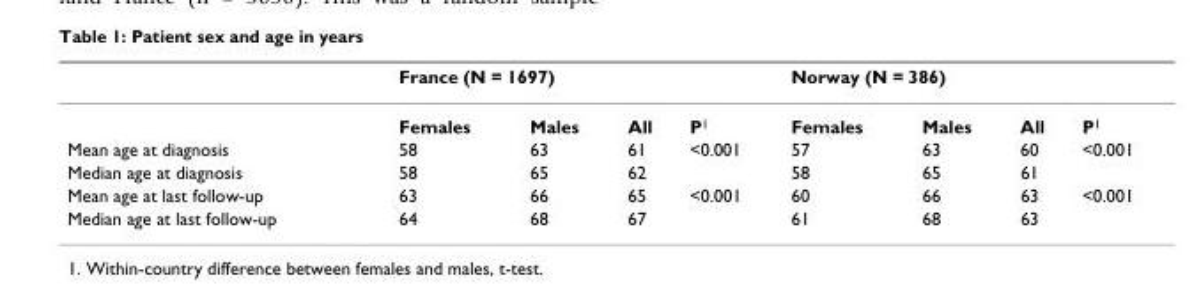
<table><thead><tr><td rowspan="2"></td><td colspan="4">France (N = 1697)</td><td colspan="4">Norway (N = 386)</td></tr><tr><td>Females</td><td>Males</td><td>All</td><td>P<sup>1</sup></td><td>Females</td><td>Males</td><td>All</td><td>P<sup>1</sup></td></tr></thead><tbody><tr><td>Mean age at diagnosis</td><td>58</td><td>63</td><td>61</td><td>&lt;0.001</td><td>57</td><td>63</td><td>60</td><td>&lt;0.001</td></tr><tr><td>Median age at diagnosis</td><td>58</td><td>65</td><td>62</td><td></td><td>58</td><td>65</td><td>61</td><td></td></tr><tr><td>Mean age at last follow-up</td><td>63</td><td>66</td><td>65</td><td>&lt;0.001</td><td>60</td><td>66</td><td>63</td><td>&lt;0.001</td></tr><tr><td>Median age at last follow-up</td><td>64</td><td>68</td><td>67</td><td></td><td>61</td><td>68</td><td>63</td><td></td></tr></tbody></table>